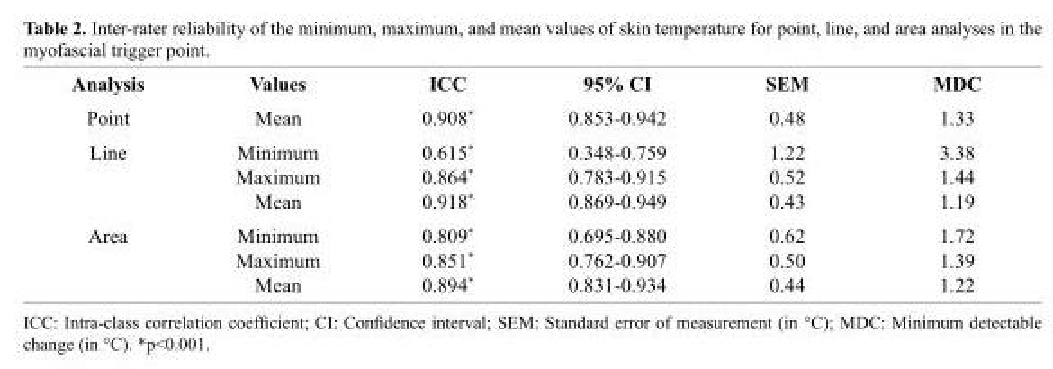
<table><thead><tr><td>Analysis</td><td>Values</td><td>ICC</td><td>95% CI</td><td>SEM</td><td>MDC</td></tr></thead><tbody><tr><td>Point</td><td>Mean</td><td>0.908*</td><td>0.853-0.942</td><td>0.48</td><td>1.33</td></tr><tr><td>Line</td><td>Minimum Maximum Mean</td><td>0.615* 0.864* 0.918*</td><td>0.348-0.759 0.783-0.915 0.869-0.949</td><td>1.22 0.52 0.43</td><td>3.38 1.44 1.19</td></tr><tr><td>Area</td><td>Minimum Maximum Mean</td><td>0.809* 0.851* 0.894*</td><td>0.695-0.880 0.762-0.907 0.831-0.934</td><td>0.62 0.50 0.44</td><td>1.72 1.39 1.22</td></tr></tbody></table>